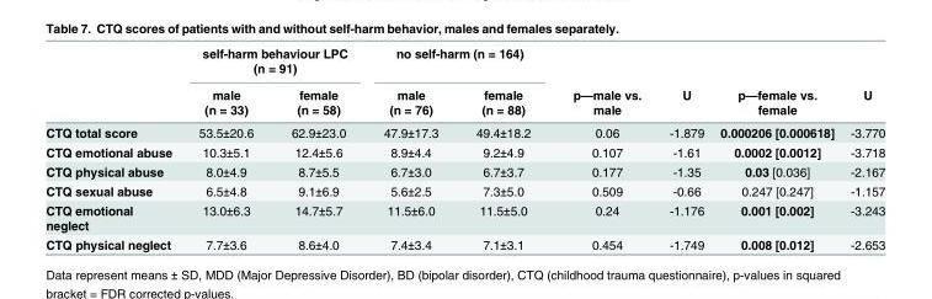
<table><thead><tr><td rowspan="2"></td><td colspan="2">self-harm behaviour LPC (n = 91)</td><td colspan="2">no self-harm (n = 164)</td><td rowspan="2">p—male vs. male</td><td rowspan="2">U</td><td rowspan="2">p—female vs. female</td><td rowspan="2">U</td></tr><tr><td>male (n = 33)</td><td>female (n = 58)</td><td>male (n = 76)</td><td>female (n = 88)</td></tr></thead><tbody><tr><td>CTQ total score</td><td>53.5±20.6</td><td>62.9±23.0</td><td>47.9±17.3</td><td>49.4±18.2</td><td>0.06</td><td>-1.879</td><td>0.000206 [0.000618]</td><td>-3.770</td></tr><tr><td>CTQ emotional abuse</td><td>10.3±5.1</td><td>12.4±5.6</td><td>8.9±4.4</td><td>9.2±4.9</td><td>0.107</td><td>-1.61</td><td>0.0002 [0.0012]</td><td>-3.718</td></tr><tr><td>CTQ physical abuse</td><td>8.0±4.9</td><td>8.7±5.5</td><td>6.7±3.0</td><td>6.7±3.7</td><td>0.177</td><td>-1.35</td><td>0.03 [0.036]</td><td>-2.167</td></tr><tr><td>CTQ sexual abuse</td><td>6.5±4.8</td><td>9.1±6.9</td><td>5.6±2.5</td><td>7.3±5.0</td><td>0.509</td><td>-0.66</td><td>0.247 [0.247]</td><td>-1.157</td></tr><tr><td>CTQ emotional neglect</td><td>13.0±6.3</td><td>14.7±5.7</td><td>11.5±6.0</td><td>11.5±5.0</td><td>0.24</td><td>-1.176</td><td>0.001 [0.002]</td><td>-3.243</td></tr><tr><td>CTQ physical neglect</td><td>7.7±3.6</td><td>8.6±4.0</td><td>7.4±3.4</td><td>7.1±3.1</td><td>0.454</td><td>-1.749</td><td>0.008 [0.012]</td><td>-2.653</td></tr></tbody></table>